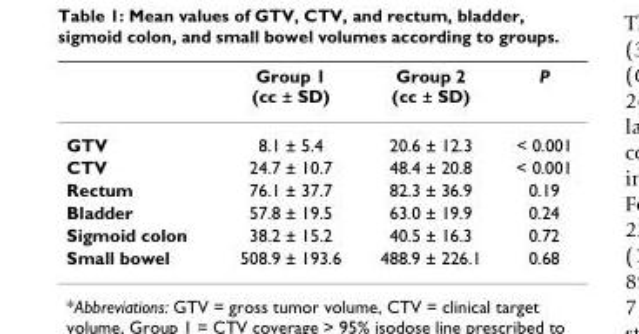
<table><thead><tr><td></td><td>Group 1 (cc ± SD)</td><td>Group 2 (cc ± SD)</td><td>P</td></tr></thead><tbody><tr><td>GTV</td><td>8.1 ± 5.4</td><td>20.6 ± 12.3</td><td>&lt; 0.001</td></tr><tr><td>CTV</td><td>24.7 ± 10.7</td><td>48.4 ± 20.8</td><td>&lt; 0.001</td></tr><tr><td>Rectum</td><td>76.1 ± 37.7</td><td>82.3 ± 36.9</td><td>0.19</td></tr><tr><td>Bladder</td><td>57.8 ± 19.5</td><td>63.0 ± 19.9</td><td>0.24</td></tr><tr><td>Sigmoid colon</td><td>38.2 ± 15.2</td><td>40.5 ± 16.3</td><td>0.72</td></tr><tr><td>Small bowel</td><td>508.9 ± 193.6</td><td>488.9 ± 226.1</td><td>0.68</td></tr></tbody></table>